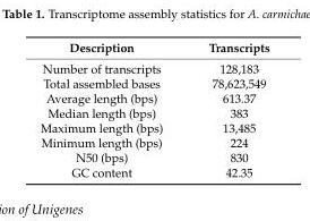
<table><thead><tr><td>Description</td><td>Transcripts</td></tr></thead><tbody><tr><td>Number of transcripts</td><td>128,183</td></tr><tr><td>Total assembled bases</td><td>78,623,549</td></tr><tr><td>Average length (bps)</td><td>613.37</td></tr><tr><td>Median length (bps)</td><td>383</td></tr><tr><td>Maximum length (bps)</td><td>13,485</td></tr><tr><td>Minimum length (bps)</td><td>224</td></tr><tr><td>N50 (bps)</td><td>830</td></tr><tr><td>GC content</td><td>42.35</td></tr></tbody></table>